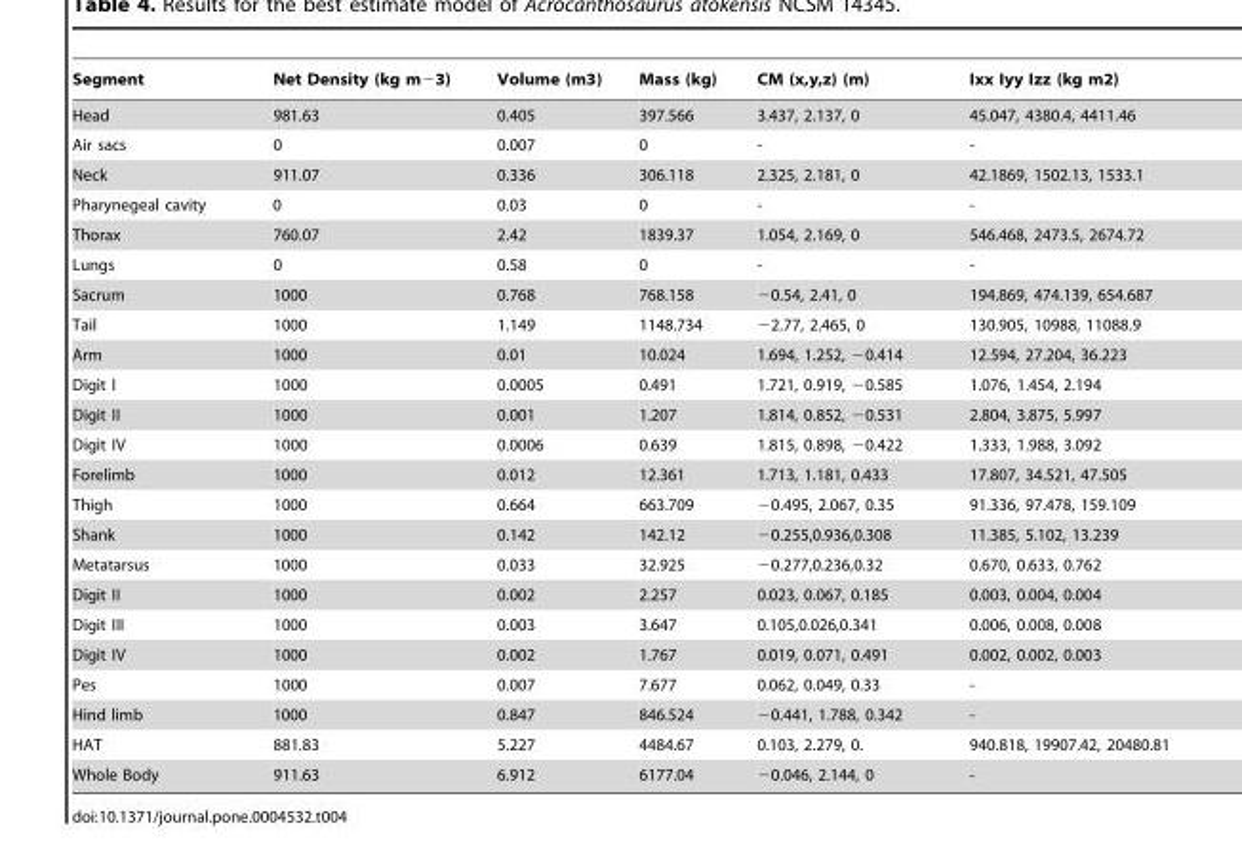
<table><thead><tr><td>Segment</td><td>Net Density (kg m−3)</td><td>Volume (m3)</td><td>Mass (kg)</td><td>CM (x,y,z) (m)</td><td>Ixx Iyy Izz (kg m2)</td></tr></thead><tbody><tr><td>Head</td><td>981.63</td><td>0.405</td><td>397.566</td><td>3.437, 2.137, 0</td><td>45.047, 4380.4, 4411.46</td></tr><tr><td>Air sacs</td><td>0</td><td>0.007</td><td>0</td><td>-</td><td>-</td></tr><tr><td>Neck</td><td>911.07</td><td>0.336</td><td>306.118</td><td>2.325, 2.181, 0</td><td>42.1869, 1502.13, 1533.1</td></tr><tr><td>Pharynegeal cavity</td><td>0</td><td>0.03</td><td>0</td><td>-</td><td>-</td></tr><tr><td>Thorax</td><td>760.07</td><td>2.42</td><td>1839.37</td><td>1.054, 2.169, 0</td><td>546.468, 2473.5, 2674.72</td></tr><tr><td>Lungs</td><td>0</td><td>0.58</td><td>0</td><td>-</td><td>-</td></tr><tr><td>Sacrum</td><td>1000</td><td>0.768</td><td>768.158</td><td>−0.54, 2.41, 0</td><td>194.869, 474.139, 654.687</td></tr><tr><td>Tail</td><td>1000</td><td>1.149</td><td>1148.734</td><td>−2.77, 2.465, 0</td><td>130.905, 10988, 11088.9</td></tr><tr><td>Arm</td><td>1000</td><td>0.01</td><td>10.024</td><td>1.694, 1.252, −0.414</td><td>12.594, 27.204, 36.223</td></tr><tr><td>Digit I</td><td>1000</td><td>0.0005</td><td>0.491</td><td>1.721, 0.919, −0.585</td><td>1.076, 1.454, 2.194</td></tr><tr><td>Digit II</td><td>1000</td><td>0.001</td><td>1.207</td><td>1.814, 0.852, −0.531</td><td>2.804, 3.875, 5.997</td></tr><tr><td>Digit IV</td><td>1000</td><td>0.0006</td><td>0.639</td><td>1.815, 0.898, −0.422</td><td>1.333, 1.988, 3.092</td></tr><tr><td>Forelimb</td><td>1000</td><td>0.012</td><td>12.361</td><td>1.713, 1.181, 0.433</td><td>17.807, 34.521, 47.505</td></tr><tr><td>Thigh</td><td>1000</td><td>0.664</td><td>663.709</td><td>−0.495, 2.067, 0.35</td><td>91.336, 97.478, 159.109</td></tr><tr><td>Shank</td><td>1000</td><td>0.142</td><td>142.12</td><td>−0.255,0.936,0.308</td><td>11.385, 5.102, 13.239</td></tr><tr><td>Metatarsus</td><td>1000</td><td>0.033</td><td>32.925</td><td>−0.277,0.236,0.32</td><td>0.670, 0.633, 0.762</td></tr><tr><td>Digit II</td><td>1000</td><td>0.002</td><td>2.257</td><td>0.023, 0.067, 0.185</td><td>0.003, 0.004, 0.004</td></tr><tr><td>Digit III</td><td>1000</td><td>0.003</td><td>3.647</td><td>0.105,0.026,0.341</td><td>0.006, 0.008, 0.008</td></tr><tr><td>Digit IV</td><td>1000</td><td>0.002</td><td>1.767</td><td>0.019, 0.071, 0.491</td><td>0.002, 0.002, 0.003</td></tr><tr><td>Pes</td><td>1000</td><td>0.007</td><td>7.677</td><td>0.062, 0.049, 0.33</td><td>-</td></tr><tr><td>Hind limb</td><td>1000</td><td>0.847</td><td>846.524</td><td>−0.441, 1.788, 0.342</td><td>-</td></tr><tr><td>HAT</td><td>881.83</td><td>5.227</td><td>4484.67</td><td>0.103, 2.279, 0.</td><td>940.818, 19907.42, 20480.81</td></tr><tr><td>Whole Body</td><td>911.63</td><td>6.912</td><td>6177.04</td><td>−0.046, 2.144, 0</td><td>-</td></tr></tbody></table>